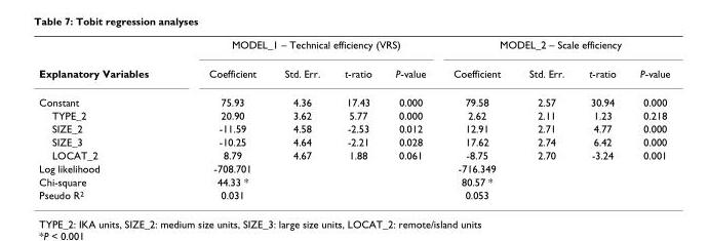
<table><thead><tr><td rowspan="2">Explanatory Variables</td><td colspan="4">MODEL_1 – Technical efficiency (VRS)</td><td colspan="4">MODEL_2 – Scale efficiency</td></tr><tr><td>Coefficient</td><td>Std. Err.</td><td>t-ratio</td><td>P-value</td><td>Coefficient</td><td>Std. Err.</td><td>t-ratio</td><td>P-value</td></tr></thead><tbody><tr><td>Constant</td><td>75.93</td><td>4.36</td><td>17.43</td><td>0.000</td><td>79.58</td><td>2.57</td><td>30.94</td><td>0.000</td></tr><tr><td>TYPE_2</td><td>20.90</td><td>3.62</td><td>5.77</td><td>0.000</td><td>2.62</td><td>2.11</td><td>1.23</td><td>0.218</td></tr><tr><td>SIZE_2</td><td>-11.59</td><td>4.58</td><td>-2.53</td><td>0.012</td><td>12.91</td><td>2.71</td><td>4.77</td><td>0.000</td></tr><tr><td>SIZE_3</td><td>-10.25</td><td>4.64</td><td>-2.21</td><td>0.028</td><td>17.62</td><td>2.74</td><td>6.42</td><td>0.000</td></tr><tr><td>LOCAT_2</td><td>8.79</td><td>4.67</td><td>1.88</td><td>0.061</td><td>-8.75</td><td>2.70</td><td>-3.24</td><td>0.001</td></tr><tr><td>Log likelihood</td><td>-708.701</td><td></td><td></td><td></td><td>-716.349</td><td></td><td></td><td></td></tr><tr><td>Chi-square</td><td>44.33 *</td><td></td><td></td><td></td><td>80.57 *</td><td></td><td></td><td></td></tr><tr><td>Pseudo R<sup>2</sup></td><td>0.031</td><td></td><td></td><td></td><td>0.053</td><td></td><td></td><td></td></tr></tbody></table>